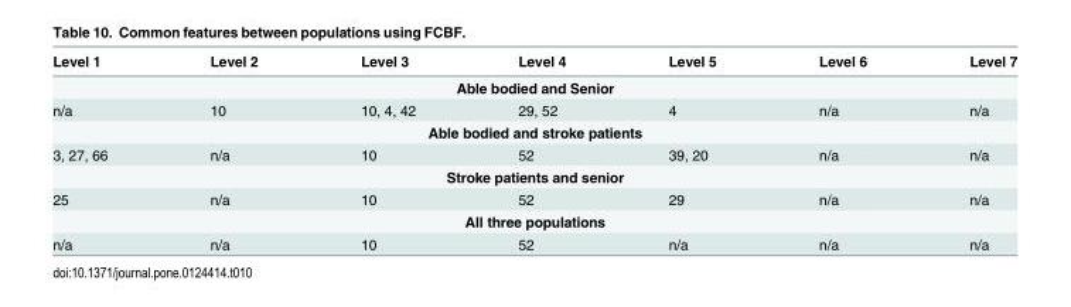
<table><thead><tr><td>Level 1</td><td>Level 2</td><td>Level 3</td><td>Level 4</td><td>Level 5</td><td>Level 6</td><td>Level 7</td></tr></thead><tbody><tr><td colspan="7">Able bodied and Senior</td></tr><tr><td>n/a</td><td>10</td><td>10, 4, 42</td><td>29, 52</td><td>4</td><td>n/a</td><td>n/a</td></tr><tr><td colspan="7">Able bodied and stroke patients</td></tr><tr><td>3, 27, 66</td><td>n/a</td><td>10</td><td>52</td><td>39, 20</td><td>n/a</td><td>n/a</td></tr><tr><td colspan="7">Stroke patients and senior</td></tr><tr><td>25</td><td>n/a</td><td>10</td><td>52</td><td>29</td><td>n/a</td><td>n/a</td></tr><tr><td colspan="7">All three populations</td></tr><tr><td>n/a</td><td>n/a</td><td>10</td><td>52</td><td>n/a</td><td>n/a</td><td>n/a</td></tr></tbody></table>